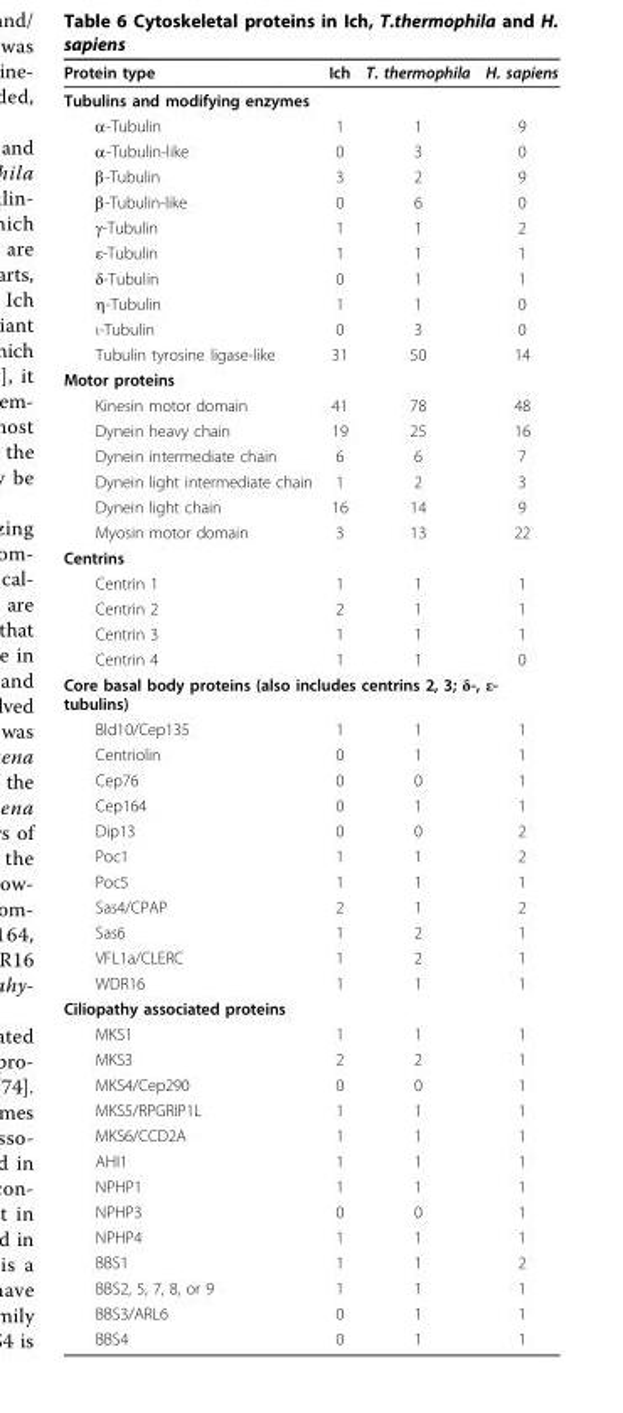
<table><thead><tr><td>Protein type</td><td>Ich</td><td>T. thermophila</td><td>H. sapiens</td></tr></thead><tbody><tr><td colspan="4">Tubulins and modifying enzymes</td></tr><tr><td>α-Tubulin</td><td>1</td><td>1</td><td>9</td></tr><tr><td>α-Tubulin-like</td><td>0</td><td>3</td><td>0</td></tr><tr><td>β-Tubulin</td><td>3</td><td>2</td><td>9</td></tr><tr><td>β-Tubulin-like</td><td>0</td><td>6</td><td>0</td></tr><tr><td>γ-Tubulin</td><td>1</td><td>1</td><td>2</td></tr><tr><td>ε-Tubulin</td><td>1</td><td>1</td><td>1</td></tr><tr><td>δ-Tubulin</td><td>0</td><td>1</td><td>1</td></tr><tr><td>η-Tubulin</td><td>1</td><td>1</td><td>0</td></tr><tr><td>ι-Tubulin</td><td>0</td><td>3</td><td>0</td></tr><tr><td>Tubulin tyrosine ligase-like</td><td>31</td><td>50</td><td>14</td></tr><tr><td colspan="4">Motor proteins</td></tr><tr><td>Kinesin motor domain</td><td>41</td><td>78</td><td>48</td></tr><tr><td>Dynein heavy chain</td><td>19</td><td>25</td><td>16</td></tr><tr><td>Dynein intermediate chain</td><td>6</td><td>6</td><td>7</td></tr><tr><td>Dynein light intermediate chain</td><td>1</td><td>2</td><td>3</td></tr><tr><td>Dynein light chain</td><td>16</td><td>14</td><td>9</td></tr><tr><td>Myosin motor domain</td><td>3</td><td>13</td><td>22</td></tr><tr><td colspan="4">Centrins</td></tr><tr><td>Centrin 1</td><td>1</td><td>1</td><td>1</td></tr><tr><td>Centrin 2</td><td>2</td><td>1</td><td>1</td></tr><tr><td>Centrin 3</td><td>1</td><td>1</td><td>1</td></tr><tr><td>Centrin 4</td><td>1</td><td>1</td><td>0</td></tr><tr><td colspan="4">Core basal body proteins (also includes centrins 2, 3; δ-, ε- tubulins)</td></tr><tr><td>Bld10/Cep135</td><td>1</td><td>1</td><td>1</td></tr><tr><td>Centriolin</td><td>0</td><td>1</td><td>1</td></tr><tr><td>Cep76</td><td>0</td><td>0</td><td>1</td></tr><tr><td>Cep164</td><td>0</td><td>1</td><td>1</td></tr><tr><td>Dip13</td><td>0</td><td>0</td><td>2</td></tr><tr><td>Poc1</td><td>1</td><td>1</td><td>2</td></tr><tr><td>Poc5</td><td>1</td><td>1</td><td>1</td></tr><tr><td>Sas4/CPAP</td><td>2</td><td>1</td><td>2</td></tr><tr><td>Sas6</td><td>1</td><td>2</td><td>1</td></tr><tr><td>VFL1a/CLERC</td><td>1</td><td>2</td><td>1</td></tr><tr><td>WDR16</td><td>1</td><td>1</td><td>1</td></tr><tr><td colspan="4">Ciliopathy associated proteins</td></tr><tr><td>MKS1</td><td>1</td><td>1</td><td>1</td></tr><tr><td>MKS3</td><td>2</td><td>2</td><td>1</td></tr><tr><td>MKS4/Cep290</td><td>0</td><td>0</td><td>1</td></tr><tr><td>MKS5/RPGRIP1L</td><td>1</td><td>1</td><td>1</td></tr><tr><td>MKS6/CCD2A</td><td>1</td><td>1</td><td>1</td></tr><tr><td>AHI1</td><td>1</td><td>1</td><td>1</td></tr><tr><td>NPHP1</td><td>1</td><td>1</td><td>1</td></tr><tr><td>NPHP3</td><td>0</td><td>0</td><td>1</td></tr><tr><td>NPHP4</td><td>1</td><td>1</td><td>1</td></tr><tr><td>BBS1</td><td>1</td><td>1</td><td>2</td></tr><tr><td>BBS2, 5, 7, 8, or 9</td><td>1</td><td>1</td><td>1</td></tr><tr><td>BBS3/ARL6</td><td>0</td><td>1</td><td>1</td></tr><tr><td>BBS4</td><td>0</td><td>1</td><td>1</td></tr></tbody></table>